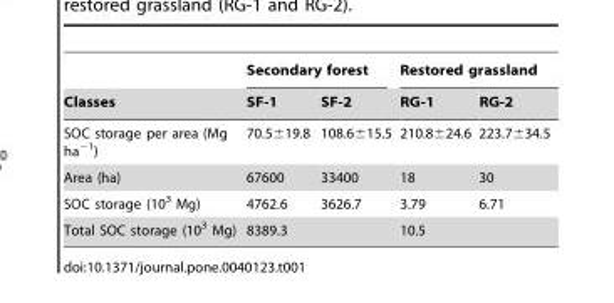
<table><thead><tr><td rowspan="2">Classes</td><td colspan="2">Secondary forest</td><td colspan="2">Restored grassland</td></tr><tr><td>SF-1</td><td>SF-2</td><td>RG-1</td><td>RG-2</td></tr></thead><tbody><tr><td>SOC storage per area (Mg ha<sup>−1</sup>)</td><td>70.5±19.8</td><td>108.6±15.5</td><td>210.8±24.6</td><td>223.7±34.5</td></tr><tr><td>Area (ha)</td><td>67600</td><td>33400</td><td>18</td><td>30</td></tr><tr><td>SOC storage (10<sup>3</sup> Mg)</td><td>4762.6</td><td>3626.7</td><td>3.79</td><td>6.71</td></tr><tr><td>Total SOC storage (10<sup>3</sup> Mg)</td><td colspan="2">8389.3</td><td colspan="2">10.5</td></tr></tbody></table>